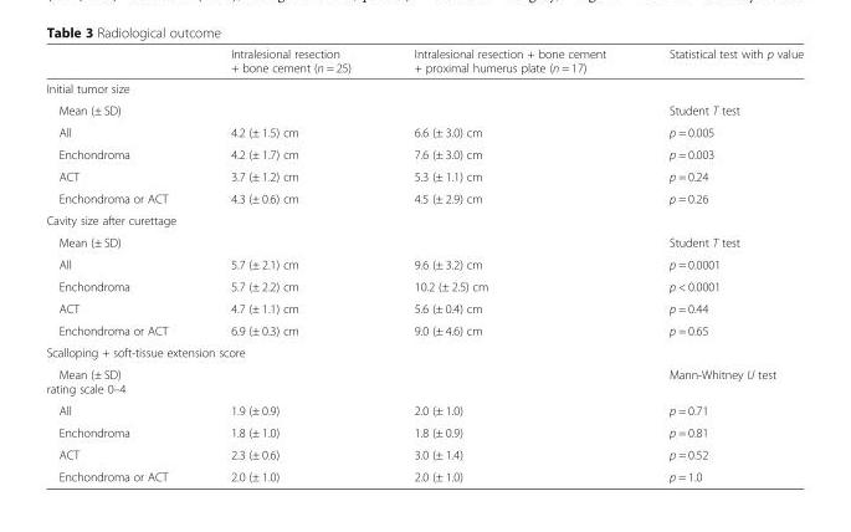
<table><thead><tr><td></td><td>Intralesional resection + bone cement (n = 25)</td><td>Intralesional resection + bone cement + proximal humerus plate (n = 17)</td><td>Statistical test with p value</td></tr></thead><tbody><tr><td colspan="4">Initial tumor size</td></tr><tr><td>Mean (± SD)</td><td></td><td></td><td>Student T test</td></tr><tr><td>All</td><td>4.2 (± 1.5) cm</td><td>6.6 (± 3.0) cm</td><td>p = 0.005</td></tr><tr><td>Enchondroma</td><td>4.2 (± 1.7) cm</td><td>7.6 (± 3.0) cm</td><td>p = 0.003</td></tr><tr><td>ACT</td><td>3.7 (± 1.2) cm</td><td>5.3 (± 1.1) cm</td><td>p = 0.24</td></tr><tr><td>Enchondroma or ACT</td><td>4.3 (± 0.6) cm</td><td>4.5 (± 2.9) cm</td><td>p = 0.26</td></tr><tr><td colspan="4">Cavity size after curettage</td></tr><tr><td>Mean (± SD)</td><td></td><td></td><td>Student T test</td></tr><tr><td>All</td><td>5.7 (± 2.1) cm</td><td>9.6 (± 3.2) cm</td><td>p = 0.0001</td></tr><tr><td>Enchondroma</td><td>5.7 (± 2.2) cm</td><td>10.2 (± 2.5) cm</td><td>p &lt; 0.0001</td></tr><tr><td>ACT</td><td>4.7 (± 1.1) cm</td><td>5.6 (± 0.4) cm</td><td>p = 0.44</td></tr><tr><td>Enchondroma or ACT</td><td>6.9 (± 0.3) cm</td><td>9.0 (± 4.6) cm</td><td>p = 0.65</td></tr><tr><td colspan="4">Scalloping + soft-tissue extension score</td></tr><tr><td>Mean (± SD) rating scale 0–4</td><td></td><td></td><td>Mann-Whitney U test</td></tr><tr><td>All</td><td>1.9 (± 0.9)</td><td>2.0 (± 1.0)</td><td>p = 0.71</td></tr><tr><td>Enchondroma</td><td>1.8 (± 1.0)</td><td>1.8 (± 0.9)</td><td>p = 0.81</td></tr><tr><td>ACT</td><td>2.3 (± 0.6)</td><td>3.0 (± 1.4)</td><td>p = 0.52</td></tr><tr><td>Enchondroma or ACT</td><td>2.0 (± 1.0)</td><td>2.0 (± 1.0)</td><td>p = 1.0</td></tr></tbody></table>